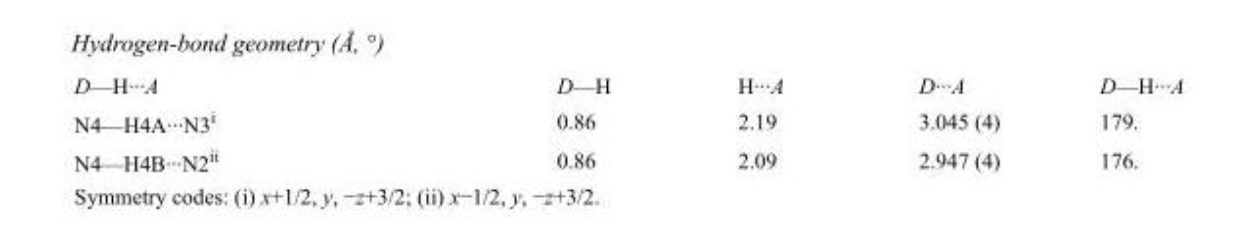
<table><tbody><tr><td>D—H···A</td><td>D—H</td><td>H···A</td><td>D···A</td><td>D—H···A</td></tr><tr><td>N4—H4A···N3<sup>i</sup></td><td>0.86</td><td>2.19</td><td>3.045 (4)</td><td>179.</td></tr><tr><td>N4—H4B···N2<sup>ii</sup></td><td>0.86</td><td>2.09</td><td>2.947 (4)</td><td>176.</td></tr></tbody></table>